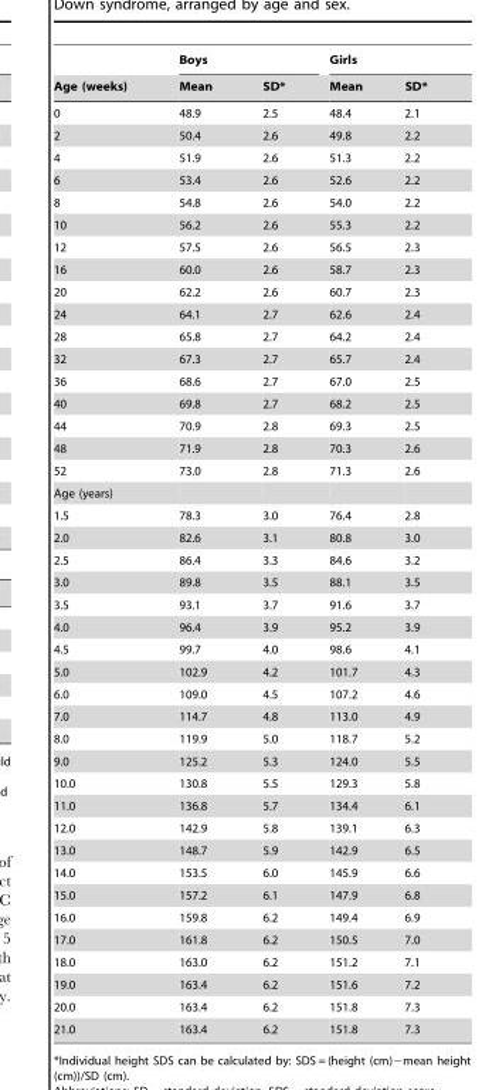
<table><thead><tr><td rowspan="2">Age (weeks)</td><td colspan="2">Boys</td><td colspan="2">Girls</td></tr><tr><td>Mean</td><td>SD*</td><td>Mean</td><td>SD*</td></tr></thead><tbody><tr><td>0</td><td>48.9</td><td>2.5</td><td>48.4</td><td>2.1</td></tr><tr><td>2</td><td>50.4</td><td>2.6</td><td>49.8</td><td>2.2</td></tr><tr><td>4</td><td>51.9</td><td>2.6</td><td>51.3</td><td>2.2</td></tr><tr><td>6</td><td>53.4</td><td>2.6</td><td>52.6</td><td>2.2</td></tr><tr><td>8</td><td>54.8</td><td>2.6</td><td>54.0</td><td>2.2</td></tr><tr><td>10</td><td>56.2</td><td>2.6</td><td>55.3</td><td>2.2</td></tr><tr><td>12</td><td>57.5</td><td>2.6</td><td>56.5</td><td>2.3</td></tr><tr><td>16</td><td>60.0</td><td>2.6</td><td>58.7</td><td>2.3</td></tr><tr><td>20</td><td>62.2</td><td>2.6</td><td>60.7</td><td>2.3</td></tr><tr><td>24</td><td>64.1</td><td>2.7</td><td>62.6</td><td>2.4</td></tr><tr><td>28</td><td>65.8</td><td>2.7</td><td>64.2</td><td>2.4</td></tr><tr><td>32</td><td>67.3</td><td>2.7</td><td>65.7</td><td>2.4</td></tr><tr><td>36</td><td>68.6</td><td>2.7</td><td>67.0</td><td>2.5</td></tr><tr><td>40</td><td>69.8</td><td>2.7</td><td>68.2</td><td>2.5</td></tr><tr><td>44</td><td>70.9</td><td>2.8</td><td>69.3</td><td>2.5</td></tr><tr><td>48</td><td>71.9</td><td>2.8</td><td>70.3</td><td>2.6</td></tr><tr><td>52</td><td>73.0</td><td>2.8</td><td>71.3</td><td>2.6</td></tr><tr><td colspan="5">Age (years)</td></tr><tr><td>1.5</td><td>78.3</td><td>3.0</td><td>76.4</td><td>2.8</td></tr><tr><td>2.0</td><td>82.6</td><td>3.1</td><td>80.8</td><td>3.0</td></tr><tr><td>2.5</td><td>86.4</td><td>3.3</td><td>84.6</td><td>3.2</td></tr><tr><td>3.0</td><td>89.8</td><td>3.5</td><td>88.1</td><td>3.5</td></tr><tr><td>3.5</td><td>93.1</td><td>3.7</td><td>91.6</td><td>3.7</td></tr><tr><td>4.0</td><td>96.4</td><td>3.9</td><td>95.2</td><td>3.9</td></tr><tr><td>4.5</td><td>99.7</td><td>4.0</td><td>98.6</td><td>4.1</td></tr><tr><td>5.0</td><td>102.9</td><td>4.2</td><td>101.7</td><td>4.3</td></tr><tr><td>6.0</td><td>109.0</td><td>4.5</td><td>107.2</td><td>4.6</td></tr><tr><td>7.0</td><td>114.7</td><td>4.8</td><td>113.0</td><td>4.9</td></tr><tr><td>8.0</td><td>119.9</td><td>5.0</td><td>118.7</td><td>5.2</td></tr><tr><td>9.0</td><td>125.2</td><td>5.3</td><td>124.0</td><td>5.5</td></tr><tr><td>10.0</td><td>130.8</td><td>5.5</td><td>129.3</td><td>5.8</td></tr><tr><td>11.0</td><td>136.8</td><td>5.7</td><td>134.4</td><td>6.1</td></tr><tr><td>12.0</td><td>142.9</td><td>5.8</td><td>139.1</td><td>6.3</td></tr><tr><td>13.0</td><td>148.7</td><td>5.9</td><td>142.9</td><td>6.5</td></tr><tr><td>14.0</td><td>153.5</td><td>6.0</td><td>145.9</td><td>6.6</td></tr><tr><td>15.0</td><td>157.2</td><td>6.1</td><td>147.9</td><td>6.8</td></tr><tr><td>16.0</td><td>159.8</td><td>6.2</td><td>149.4</td><td>6.9</td></tr><tr><td>17.0</td><td>161.8</td><td>6.2</td><td>150.5</td><td>7.0</td></tr><tr><td>18.0</td><td>163.0</td><td>6.2</td><td>151.2</td><td>7.1</td></tr><tr><td>19.0</td><td>163.4</td><td>6.2</td><td>151.6</td><td>7.2</td></tr><tr><td>20.0</td><td>163.4</td><td>6.2</td><td>151.8</td><td>7.3</td></tr><tr><td>21.0</td><td>163.4</td><td>6.2</td><td>151.8</td><td>7.3</td></tr></tbody></table>